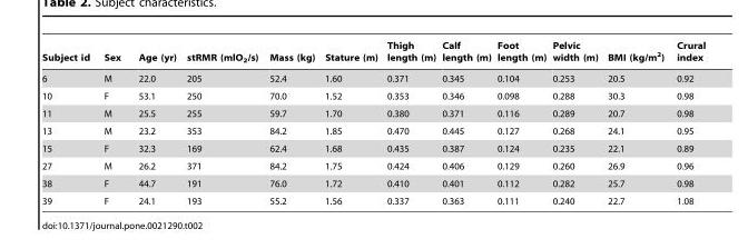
<table><thead><tr><td>Subject id</td><td>Sex</td><td>Age (yr)</td><td>stRMR (mlO<sub>2</sub>/s)</td><td>Mass (kg)</td><td>Stature (m)</td><td>Thigh length (m)</td><td>Calf length (m)</td><td>Foot length (m)</td><td>Pelvic width (m)</td><td>BMI (kg/m<sup>2</sup>)</td><td>Crural index</td></tr></thead><tbody><tr><td>6</td><td>M</td><td>22.0</td><td>205</td><td>52.4</td><td>1.60</td><td>0.371</td><td>0.345</td><td>0.104</td><td>0.253</td><td>20.5</td><td>0.92</td></tr><tr><td>10</td><td>F</td><td>53.1</td><td>250</td><td>70.0</td><td>1.52</td><td>0.353</td><td>0.346</td><td>0.098</td><td>0.288</td><td>30.3</td><td>0.98</td></tr><tr><td>11</td><td>M</td><td>25.5</td><td>255</td><td>59.7</td><td>1.70</td><td>0.380</td><td>0.371</td><td>0.116</td><td>0.289</td><td>20.7</td><td>0.98</td></tr><tr><td>13</td><td>M</td><td>23.2</td><td>353</td><td>84.2</td><td>1.85</td><td>0.470</td><td>0.445</td><td>0.127</td><td>0.268</td><td>24.1</td><td>0.95</td></tr><tr><td>15</td><td>F</td><td>32.3</td><td>169</td><td>62.4</td><td>1.68</td><td>0.435</td><td>0.387</td><td>0.124</td><td>0.235</td><td>22.1</td><td>0.89</td></tr><tr><td>27</td><td>M</td><td>26.2</td><td>371</td><td>84.2</td><td>1.75</td><td>0.424</td><td>0.406</td><td>0.129</td><td>0.260</td><td>26.9</td><td>0.96</td></tr><tr><td>38</td><td>F</td><td>44.7</td><td>191</td><td>76.0</td><td>1.72</td><td>0.410</td><td>0.401</td><td>0.112</td><td>0.282</td><td>25.7</td><td>0.98</td></tr><tr><td>39</td><td>F</td><td>24.1</td><td>193</td><td>55.2</td><td>1.56</td><td>0.337</td><td>0.363</td><td>0.111</td><td>0.240</td><td>22.7</td><td>1.08</td></tr></tbody></table>